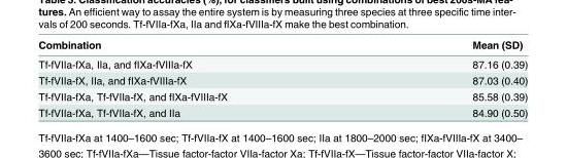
<table><thead><tr><td>Combination</td><td>Mean (SD)</td></tr></thead><tbody><tr><td>Tf-fVIIa-fXa, IIa, and fIXa-fVIIIa-fX</td><td>87.16 (0.39)</td></tr><tr><td>Tf-fVIIa-fX, IIa, and fIXa-fVIIIa-fX</td><td>87.03 (0.40)</td></tr><tr><td>Tf-fVIIa-fXa, Tf-fVIIa-fX, and fIXa-fVIIIa-fX</td><td>85.58 (0.39)</td></tr><tr><td>Tf-fVIIa-fXa, Tf-fVIIa-fX, and IIa</td><td>84.90 (0.50)</td></tr></tbody></table>